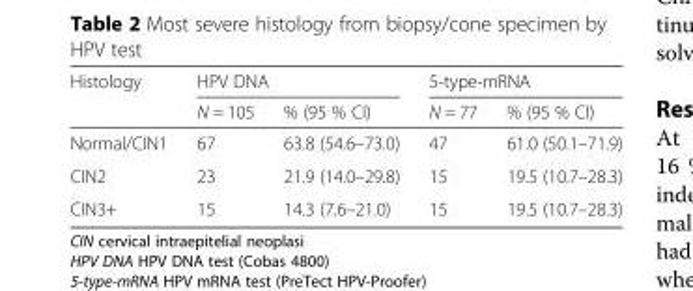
<table><thead><tr><td rowspan="2">Histology</td><td colspan="2">HPV DNA</td><td colspan="2">5-type-mRNA</td></tr><tr><td>N = 105</td><td>% (95 % CI)</td><td>N = 77</td><td>% (95 % CI)</td></tr></thead><tbody><tr><td>Normal/CIN1</td><td>67</td><td>63.8 (54.6–73.0)</td><td>47</td><td>61.0 (50.1–71.9)</td></tr><tr><td>CIN2</td><td>23</td><td>21.9 (14.0–29.8)</td><td>15</td><td>19.5 (10.7–28.3)</td></tr><tr><td>CIN3+</td><td>15</td><td>14.3 (7.6–21.0)</td><td>15</td><td>19.5 (10.7–28.3)</td></tr></tbody></table>